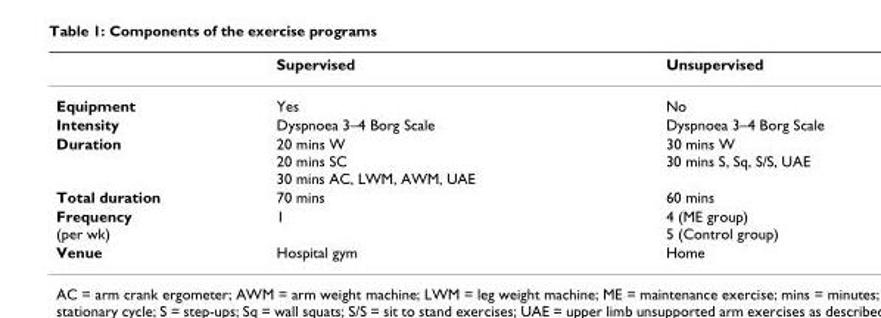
<table><thead><tr><td></td><td>Supervised</td><td>Unsupervised</td></tr></thead><tbody><tr><td>Equipment</td><td>Yes</td><td>No</td></tr><tr><td>Intensity</td><td>Dyspnoea 3–4 Borg Scale</td><td>Dyspnoea 3–4 Borg Scale</td></tr><tr><td>Duration</td><td>20 mins W 20 mins SC 30 mins AC, LWM, AWM, UAE</td><td>30 mins W 30 mins S, Sq, S/S, UAE</td></tr><tr><td>Total duration</td><td>70 mins</td><td>60 mins</td></tr><tr><td>Frequency (per wk)</td><td>1</td><td>4 (ME group) 5 (Control group)</td></tr><tr><td>Venue</td><td>Hospital gym</td><td>Home</td></tr></tbody></table>